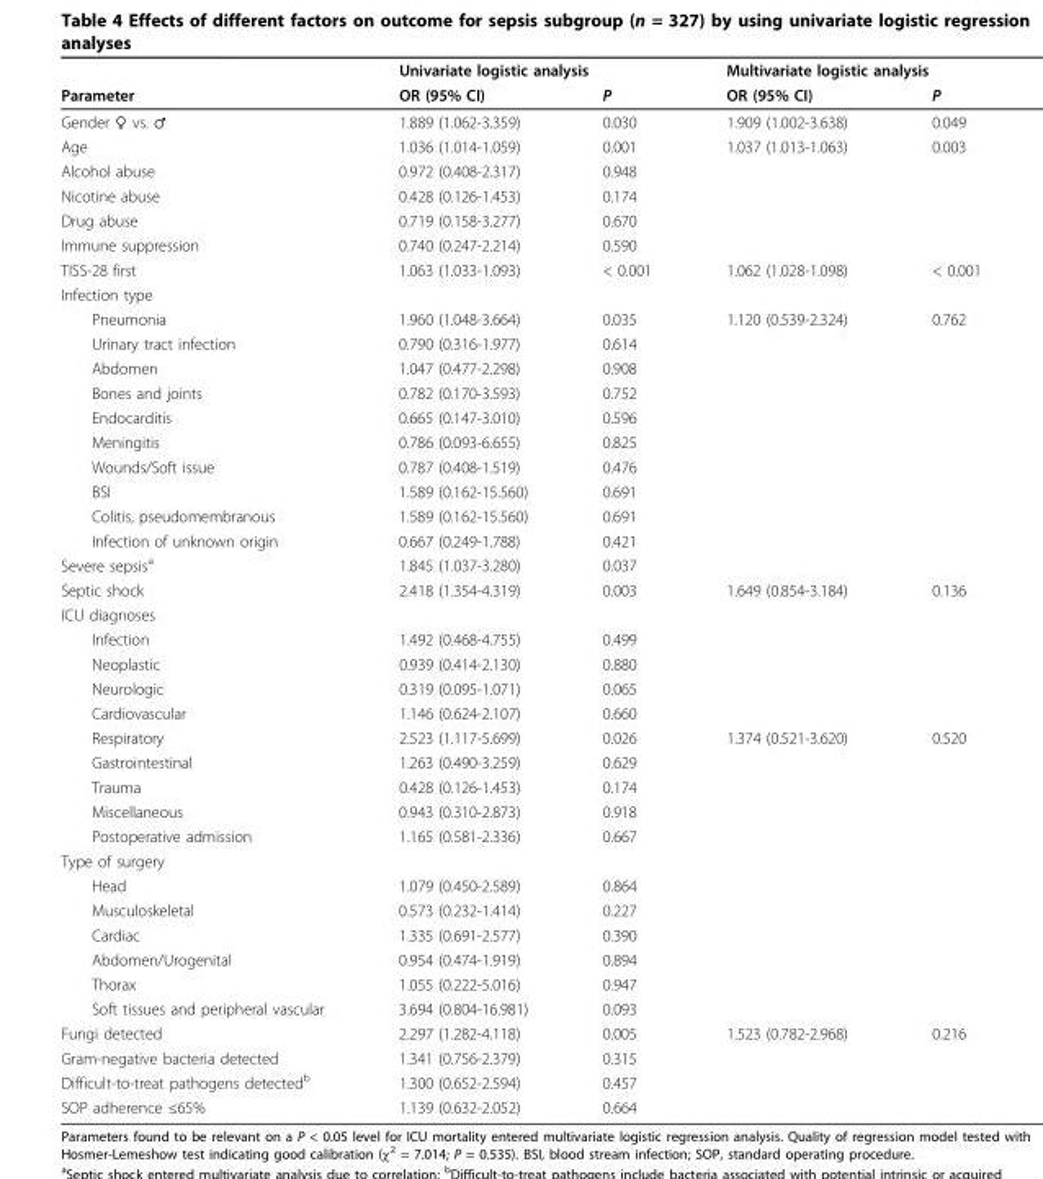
<table><thead><tr><td rowspan="2">Parameter</td><td colspan="2">Univariate logistic analysis</td><td colspan="2">Multivariate logistic analysis</td></tr><tr><td>OR (95% CI)</td><td>P</td><td>OR (95% CI)</td><td>P</td></tr></thead><tbody><tr><td>Gender ♀ vs. ♂</td><td>1.889 (1.062-3.359)</td><td>0.030</td><td>1.909 (1.002-3.638)</td><td>0.049</td></tr><tr><td>Age</td><td>1.036 (1.014-1.059)</td><td>0.001</td><td>1.037 (1.013-1.063)</td><td>0.003</td></tr><tr><td>Alcohol abuse</td><td>0.972 (0.408-2.317)</td><td>0.948</td><td></td><td></td></tr><tr><td>Nicotine abuse</td><td>0.428 (0.126-1.453)</td><td>0.174</td><td></td><td></td></tr><tr><td>Drug abuse</td><td>0.719 (0.158-3.277)</td><td>0.670</td><td></td><td></td></tr><tr><td>Immune suppression</td><td>0.740 (0.247-2.214)</td><td>0.590</td><td></td><td></td></tr><tr><td>TISS-28 first</td><td>1.063 (1.033-1.093)</td><td>&lt; 0.001</td><td>1.062 (1.028-1.098)</td><td>&lt; 0.001</td></tr><tr><td colspan="5">Infection type</td></tr><tr><td>Pneumonia</td><td>1.960 (1.048-3.664)</td><td>0.035</td><td>1.120 (0.539-2.324)</td><td>0.762</td></tr><tr><td>Urinary tract infection</td><td>0.790 (0.316-1.977)</td><td>0.614</td><td></td><td></td></tr><tr><td>Abdomen</td><td>1.047 (0.477-2.298)</td><td>0.908</td><td></td><td></td></tr><tr><td>Bones and joints</td><td>0.782 (0.170-3.593)</td><td>0.752</td><td></td><td></td></tr><tr><td>Endocarditis</td><td>0.665 (0.147-3.010)</td><td>0.596</td><td></td><td></td></tr><tr><td>Meningitis</td><td>0.786 (0.093-6.655)</td><td>0.825</td><td></td><td></td></tr><tr><td>Wounds/Soft issue</td><td>0.787 (0.408-1.519)</td><td>0.476</td><td></td><td></td></tr><tr><td>BSI</td><td>1.589 (0.162-15.560)</td><td>0.691</td><td></td><td></td></tr><tr><td>Colitis, pseudomembranous</td><td>1.589 (0.162-15.560)</td><td>0.691</td><td></td><td></td></tr><tr><td>Infection of unknown origin</td><td>0.667 (0.249-1.788)</td><td>0.421</td><td></td><td></td></tr><tr><td>Severe sepsis<sup>a</sup></td><td>1.845 (1.037-3.280)</td><td>0.037</td><td></td><td></td></tr><tr><td>Septic shock</td><td>2.418 (1.354-4.319)</td><td>0.003</td><td>1.649 (0.854-3.184)</td><td>0.136</td></tr><tr><td colspan="5">ICU diagnoses</td></tr><tr><td>Infection</td><td>1.492 (0.468-4.755)</td><td>0.499</td><td></td><td></td></tr><tr><td>Neoplastic</td><td>0.939 (0.414-2.130)</td><td>0.880</td><td></td><td></td></tr><tr><td>Neurologic</td><td>0.319 (0.095-1.071)</td><td>0.065</td><td></td><td></td></tr><tr><td>Cardiovascular</td><td>1.146 (0.624-2.107)</td><td>0.660</td><td></td><td></td></tr><tr><td>Respiratory</td><td>2.523 (1.117-5.699)</td><td>0.026</td><td>1.374 (0.521-3.620)</td><td>0.520</td></tr><tr><td>Gastrointestinal</td><td>1.263 (0.490-3.259)</td><td>0.629</td><td></td><td></td></tr><tr><td>Trauma</td><td>0.428 (0.126-1.453)</td><td>0.174</td><td></td><td></td></tr><tr><td>Miscellaneous</td><td>0.943 (0.310-2.873)</td><td>0.918</td><td></td><td></td></tr><tr><td>Postoperative admission</td><td>1.165 (0.581-2.336)</td><td>0.667</td><td></td><td></td></tr><tr><td colspan="5">Type of surgery</td></tr><tr><td>Head</td><td>1.079 (0.450-2.589)</td><td>0.864</td><td></td><td></td></tr><tr><td>Musculoskeletal</td><td>0.573 (0.232-1.414)</td><td>0.227</td><td></td><td></td></tr><tr><td>Cardiac</td><td>1.335 (0.691-2.577)</td><td>0.390</td><td></td><td></td></tr><tr><td>Abdomen/Urogenital</td><td>0.954 (0.474-1.919)</td><td>0.894</td><td></td><td></td></tr><tr><td>Thorax</td><td>1.055 (0.222-5.016)</td><td>0.947</td><td></td><td></td></tr><tr><td>Soft tissues and peripheral vascular</td><td>3.694 (0.804-16.981)</td><td>0.093</td><td></td><td></td></tr><tr><td>Fungi detected</td><td>2.297 (1.282-4.118)</td><td>0.005</td><td>1.523 (0.782-2.968)</td><td>0.216</td></tr><tr><td>Gram-negative bacteria detected</td><td>1.341 (0.756-2.379)</td><td>0.315</td><td></td><td></td></tr><tr><td>Difficult-to-treat pathogens detected<sup>b</sup></td><td>1.300 (0.652-2.594)</td><td>0.457</td><td></td><td></td></tr><tr><td>SOP adherence ≤65%</td><td>1.139 (0.632-2.052)</td><td>0.664</td><td></td><td></td></tr></tbody></table>